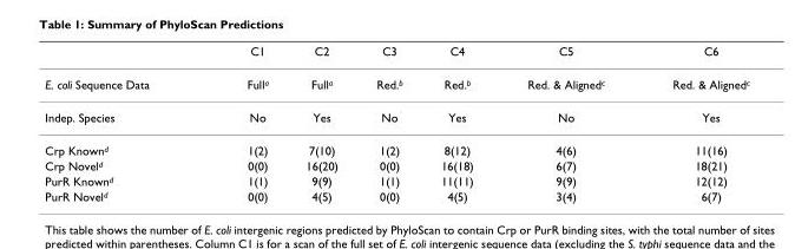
<table><thead><tr><td></td><td>C1</td><td>C2</td><td>C3</td><td>C4</td><td>C5</td><td>C6</td></tr></thead><tbody><tr><td>E. coli Sequence Data</td><td>Full<sup>a</sup></td><td>Full<sup>a</sup></td><td>Red.<sup>b</sup></td><td>Red.<sup>b</sup></td><td>Red. &amp; Aligned<sup>c</sup></td><td>Red. &amp; Aligned<sup>c</sup></td></tr><tr><td>Indep. Species</td><td>No</td><td>Yes</td><td>No</td><td>Yes</td><td>No</td><td>Yes</td></tr><tr><td>Crp Known<sup>d</sup></td><td>1(2)</td><td>7(10)</td><td>1(2)</td><td>8(12)</td><td>4(6)</td><td>11(16)</td></tr><tr><td>Crp Novel<sup>d</sup></td><td>0(0)</td><td>16(20)</td><td>0(0)</td><td>16(18)</td><td>6(7)</td><td>18(21)</td></tr><tr><td>PurR Known<sup>d</sup></td><td>1(1)</td><td>9(9)</td><td>1(1)</td><td>11(11)</td><td>9(9)</td><td>12(12)</td></tr><tr><td>PurR Novel<sup>d</sup></td><td>0(0)</td><td>4(5)</td><td>0(0)</td><td>4(5)</td><td>3(4)</td><td>6(7)</td></tr></tbody></table>